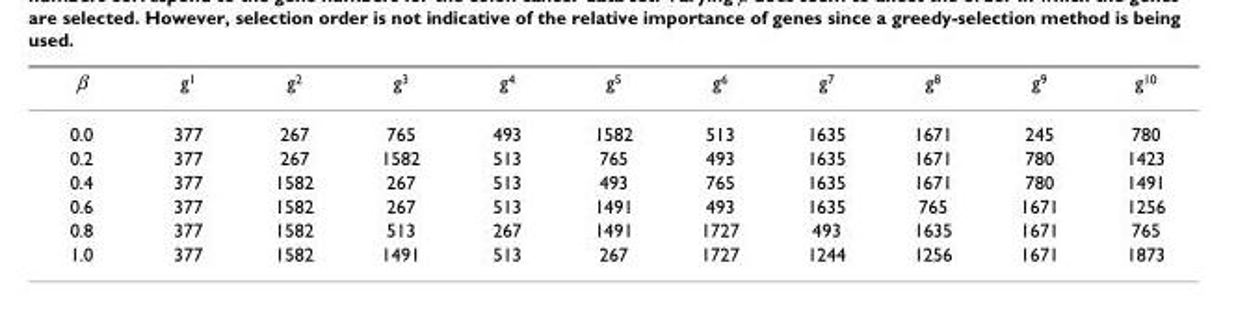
<table><thead><tr><td>β</td><td>g1</td><td>g2</td><td>g3</td><td>g4</td><td>g5</td><td>g6</td><td>g7</td><td>g8</td><td>g9</td><td>g10</td></tr></thead><tbody><tr><td>0.0</td><td>377</td><td>267</td><td>765</td><td>493</td><td>1582</td><td>513</td><td>1635</td><td>1671</td><td>245</td><td>780</td></tr><tr><td>0.2</td><td>377</td><td>267</td><td>1582</td><td>513</td><td>765</td><td>493</td><td>1635</td><td>1671</td><td>780</td><td>1423</td></tr><tr><td>0.4</td><td>377</td><td>1582</td><td>267</td><td>513</td><td>493</td><td>765</td><td>1635</td><td>1671</td><td>780</td><td>1491</td></tr><tr><td>0.6</td><td>377</td><td>1582</td><td>267</td><td>513</td><td>1491</td><td>493</td><td>1635</td><td>765</td><td>1671</td><td>1256</td></tr><tr><td>0.8</td><td>377</td><td>1582</td><td>513</td><td>267</td><td>1491</td><td>1727</td><td>493</td><td>1635</td><td>1671</td><td>765</td></tr><tr><td>1.0</td><td>377</td><td>1582</td><td>1491</td><td>513</td><td>267</td><td>1727</td><td>1244</td><td>1256</td><td>1671</td><td>1873</td></tr></tbody></table>